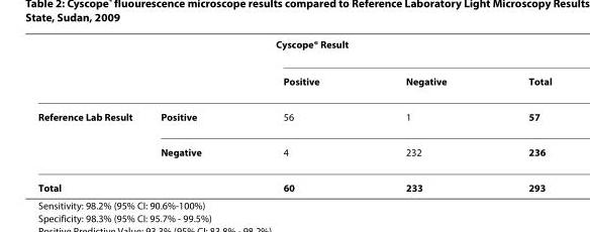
<table><thead><tr><td rowspan="2"></td><td rowspan="2"></td><td colspan="3">Cyscope<sup>®</sup> Result</td></tr><tr><td>Positive</td><td>Negative</td><td>Total</td></tr></thead><tbody><tr><td rowspan="2">Reference Lab Result</td><td>Positive</td><td>56</td><td>1</td><td>57</td></tr><tr><td>Negative</td><td>4</td><td>232</td><td>236</td></tr><tr><td>Total</td><td></td><td>60</td><td>233</td><td>293</td></tr></tbody></table>